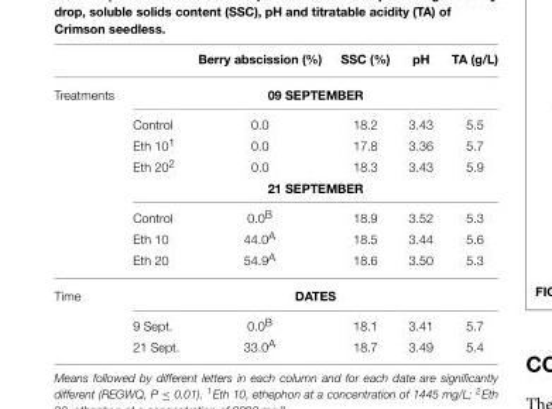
<table><thead><tr><td></td><td></td><td>Berry abscission (%)</td><td>SSC (%)</td><td>pH</td><td>TA (g/L)</td></tr></thead><tbody><tr><td rowspan="8">Treatments</td><td colspan="5">09 SEPTEMBER</td></tr><tr><td>Control</td><td>0.0</td><td>18.2</td><td>3.43</td><td>5.5</td></tr><tr><td>Eth 10<sup>1</sup></td><td>0.0</td><td>17.8</td><td>3.36</td><td>5.7</td></tr><tr><td>Eth 20<sup>2</sup></td><td>0.0</td><td>18.3</td><td>3.43</td><td>5.9</td></tr><tr><td colspan="5">21 SEPTEMBER</td></tr><tr><td>Control</td><td>0.0<sup>B</sup></td><td>18.9</td><td>3.52</td><td>5.3</td></tr><tr><td>Eth 10</td><td>44.0<sup>A</sup></td><td>18.5</td><td>3.44</td><td>5.6</td></tr><tr><td>Eth 20</td><td>54.9<sup>A</sup></td><td>18.6</td><td>3.50</td><td>5.3</td></tr><tr><td rowspan="3">Time</td><td colspan="5">DATES</td></tr><tr><td>9 Sept.</td><td>0.0<sup>B</sup></td><td>18.1</td><td>3.41</td><td>5.7</td></tr><tr><td>21 Sept.</td><td>33.0<sup>A</sup></td><td>18.7</td><td>3.49</td><td>5.4</td></tr></tbody></table>